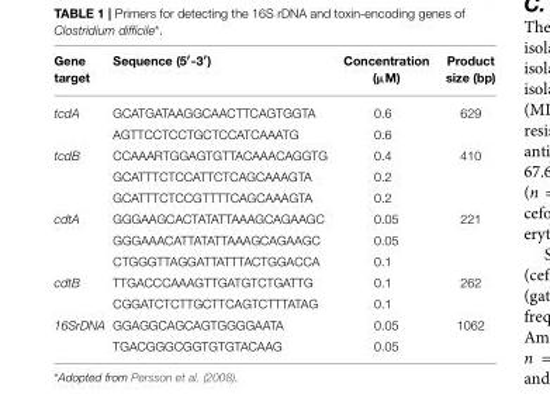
<table><thead><tr><td>Gene target</td><td>Sequence (5′-3′)</td><td>Concentration (µM)</td><td>Product size (bp)</td></tr></thead><tbody><tr><td rowspan="2">tcdA</td><td>GCATGATAAGGCAACTTCAGTGGTA</td><td>0.6</td><td>629</td></tr><tr><td>AGTTCCTCCTGCTCCATCAAATG</td><td>0.6</td><td></td></tr><tr><td rowspan="3">tcdB</td><td>CCAAARTGGAGTGTTACAAACAGGTG</td><td>0.4</td><td>410</td></tr><tr><td>GCATTTCTCCATTCTCAGCAAAGTA</td><td>0.2</td><td></td></tr><tr><td>GCATTTCTCCGTTTTCAGCAAAGTA</td><td>0.2</td><td></td></tr><tr><td rowspan="3">cdtA</td><td>GGGAAGCACTATATTAAAGCAGAAGC</td><td>0.05</td><td>221</td></tr><tr><td>GGGAAACATTATATTAAAGCAGAAGC</td><td>0.05</td><td></td></tr><tr><td>CTGGGTTAGGATTATTTACTGGACCA</td><td>0.1</td><td></td></tr><tr><td rowspan="2">cdtB</td><td>TTGACCCAAAGTTGATGTCTGATTG</td><td>0.1</td><td>262</td></tr><tr><td>CGGATCTCTTGCTTCAGTCTTTATAG</td><td>0.1</td><td></td></tr><tr><td rowspan="2">16SrDNA</td><td>GGAGGCAGCAGTGGGGAATA</td><td>0.05</td><td>1062</td></tr><tr><td>TGACGGGCGGTGTGTACAAG</td><td>0.05</td><td></td></tr></tbody></table>